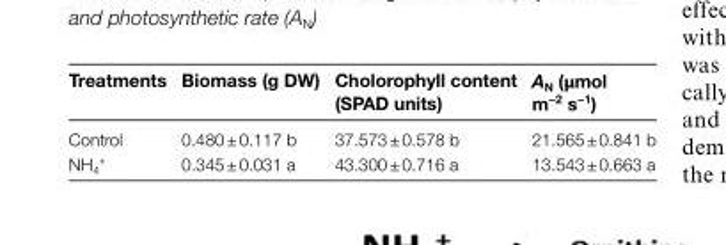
<table><thead><tr><td>Treatments</td><td>Biomass (g DW)</td><td>Cholorophyll content (SPAD units)</td><td>A<sub>N</sub> (μmol m<sup>−2</sup> s<sup>−1</sup>)</td></tr></thead><tbody><tr><td>Control</td><td>0.480 ± 0.117 b</td><td>37.573 ± 0.578 b</td><td>21.565 ± 0.841 b</td></tr><tr><td>NH<sub>4</sub> <sup>+</sup></td><td>0.345 ± 0.031 a</td><td>43.300 ± 0.716 a</td><td>13.543 ± 0.663 a</td></tr></tbody></table>